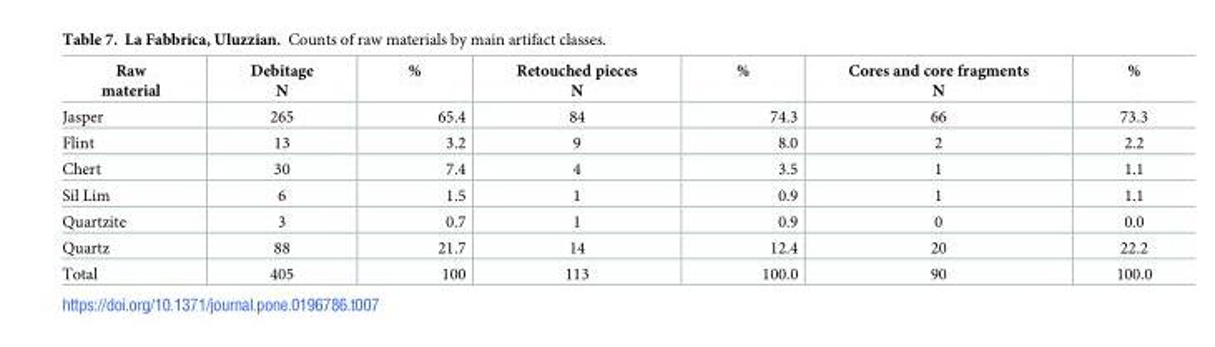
<table><thead><tr><td>Raw material</td><td>Debitage N</td><td>%</td><td>Retouched pieces N</td><td>%</td><td>Cores and core fragments N</td><td>%</td></tr></thead><tbody><tr><td>Jasper</td><td>265</td><td>65.4</td><td>84</td><td>74.3</td><td>66</td><td>73.3</td></tr><tr><td>Flint</td><td>13</td><td>3.2</td><td>9</td><td>8.0</td><td>2</td><td>2.2</td></tr><tr><td>Chert</td><td>30</td><td>7.4</td><td>4</td><td>3.5</td><td>1</td><td>1.1</td></tr><tr><td>Sil Lim</td><td>6</td><td>1.5</td><td>1</td><td>0.9</td><td>1</td><td>1.1</td></tr><tr><td>Quartzite</td><td>3</td><td>0.7</td><td>1</td><td>0.9</td><td>0</td><td>0.0</td></tr><tr><td>Quartz</td><td>88</td><td>21.7</td><td>14</td><td>12.4</td><td>20</td><td>22.2</td></tr><tr><td>Total</td><td>405</td><td>100</td><td>113</td><td>100.0</td><td>90</td><td>100.0</td></tr></tbody></table>